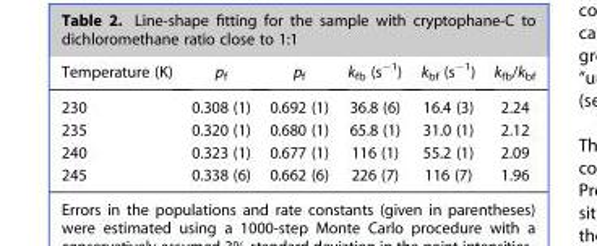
<table><thead><tr><td>Temperature (K)</td><td>p<sub>f</sub></td><td>p<sub>f</sub></td><td>k<sub>fb</sub> (s<sup>−1</sup>)</td><td>k<sub>bf</sub> (s<sup>−1</sup>)</td><td>k<sub>fb</sub>/k<sub>bf</sub></td></tr></thead><tbody><tr><td>230</td><td>0.308 (1)</td><td>0.692 (1)</td><td>36.8 (6)</td><td>16.4 (3)</td><td>2.24</td></tr><tr><td>235</td><td>0.320 (1)</td><td>0.680 (1)</td><td>65.8 (1)</td><td>31.0 (1)</td><td>2.12</td></tr><tr><td>240</td><td>0.323 (1)</td><td>0.677 (1)</td><td>116 (1)</td><td>55.2 (1)</td><td>2.09</td></tr><tr><td>245</td><td>0.338 (6)</td><td>0.662 (6)</td><td>226 (7)</td><td>116 (7)</td><td>1.96</td></tr></tbody></table>